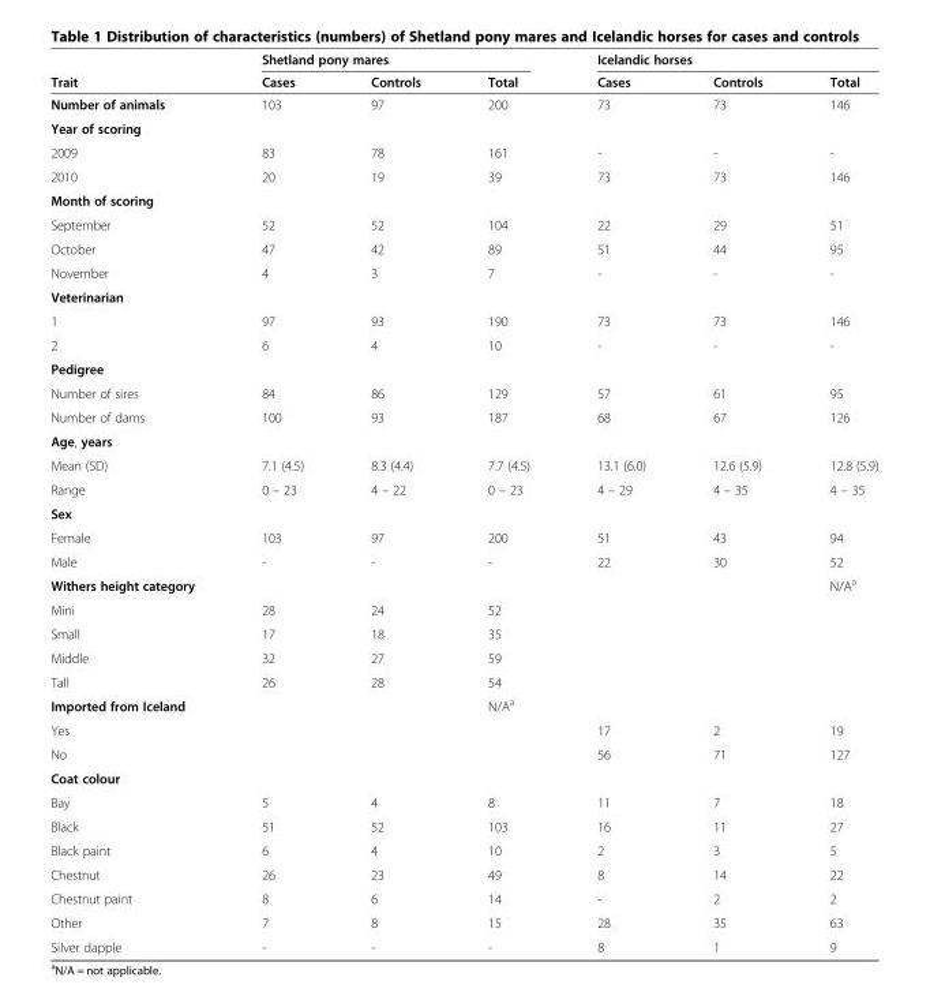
<table><thead><tr><td rowspan="2">Trait</td><td colspan="3">Shetland pony mares</td><td colspan="3">Icelandic horses</td></tr><tr><td>Cases</td><td>Controls</td><td>Total</td><td>Cases</td><td>Controls</td><td>Total</td></tr></thead><tbody><tr><td>Number of animals</td><td>103</td><td>97</td><td>200</td><td>73</td><td>73</td><td>146</td></tr><tr><td colspan="7">Year of scoring</td></tr><tr><td>2009</td><td>83</td><td>78</td><td>161</td><td>-</td><td>-</td><td>-</td></tr><tr><td>2010</td><td>20</td><td>19</td><td>39</td><td>73</td><td>73</td><td>146</td></tr><tr><td colspan="7">Month of scoring</td></tr><tr><td>September</td><td>52</td><td>52</td><td>104</td><td>22</td><td>29</td><td>51</td></tr><tr><td>October</td><td>47</td><td>42</td><td>89</td><td>51</td><td>44</td><td>95</td></tr><tr><td>November</td><td>4</td><td>3</td><td>7</td><td>-</td><td>-</td><td>-</td></tr><tr><td colspan="7">Veterinarian</td></tr><tr><td>1</td><td>97</td><td>93</td><td>190</td><td>73</td><td>73</td><td>146</td></tr><tr><td>2</td><td>6</td><td>4</td><td>10</td><td>-</td><td>-</td><td>-</td></tr><tr><td colspan="7">Pedigree</td></tr><tr><td>Number of sires</td><td>84</td><td>86</td><td>129</td><td>57</td><td>61</td><td>95</td></tr><tr><td>Number of dams</td><td>100</td><td>93</td><td>187</td><td>68</td><td>67</td><td>126</td></tr><tr><td colspan="7">Age, years</td></tr><tr><td>Mean (SD)</td><td>7.1 (4.5)</td><td>8.3 (4.4)</td><td>7.7 (4.5)</td><td>13.1 (6.0)</td><td>12.6 (5.9)</td><td>12.8 (5.9)</td></tr><tr><td>Range</td><td>0 – 23</td><td>4 – 22</td><td>0 – 23</td><td>4 – 29</td><td>4 – 35</td><td>4 – 35</td></tr><tr><td colspan="7">Sex</td></tr><tr><td>Female</td><td>103</td><td>97</td><td>200</td><td>51</td><td>43</td><td>94</td></tr><tr><td>Male</td><td>-</td><td>-</td><td>-</td><td>22</td><td>30</td><td>52</td></tr><tr><td>Withers height category</td><td></td><td></td><td></td><td></td><td></td><td>N/A<sup>a</sup></td></tr><tr><td>Mini</td><td>28</td><td>24</td><td>52</td><td></td><td></td><td></td></tr><tr><td>Small</td><td>17</td><td>18</td><td>35</td><td></td><td></td><td></td></tr><tr><td>Middle</td><td>32</td><td>27</td><td>59</td><td></td><td></td><td></td></tr><tr><td>Tall</td><td>26</td><td>28</td><td>54</td><td></td><td></td><td></td></tr><tr><td>Imported from Iceland</td><td></td><td></td><td>N/A<sup>a</sup></td><td></td><td></td><td></td></tr><tr><td>Yes</td><td></td><td></td><td></td><td>17</td><td>2</td><td>19</td></tr><tr><td>No</td><td></td><td></td><td></td><td>56</td><td>71</td><td>127</td></tr><tr><td colspan="7">Coat colour</td></tr><tr><td>Bay</td><td>5</td><td>4</td><td>8</td><td>11</td><td>7</td><td>18</td></tr><tr><td>Black</td><td>51</td><td>52</td><td>103</td><td>16</td><td>11</td><td>27</td></tr><tr><td>Black paint</td><td>6</td><td>4</td><td>10</td><td>2</td><td>3</td><td>5</td></tr><tr><td>Chestnut</td><td>26</td><td>23</td><td>49</td><td>8</td><td>14</td><td>22</td></tr><tr><td>Chestnut paint</td><td>8</td><td>6</td><td>14</td><td>-</td><td>2</td><td>2</td></tr><tr><td>Other</td><td>7</td><td>8</td><td>15</td><td>28</td><td>35</td><td>63</td></tr><tr><td>Silver dapple</td><td>-</td><td>-</td><td>-</td><td>8</td><td>1</td><td>9</td></tr></tbody></table>